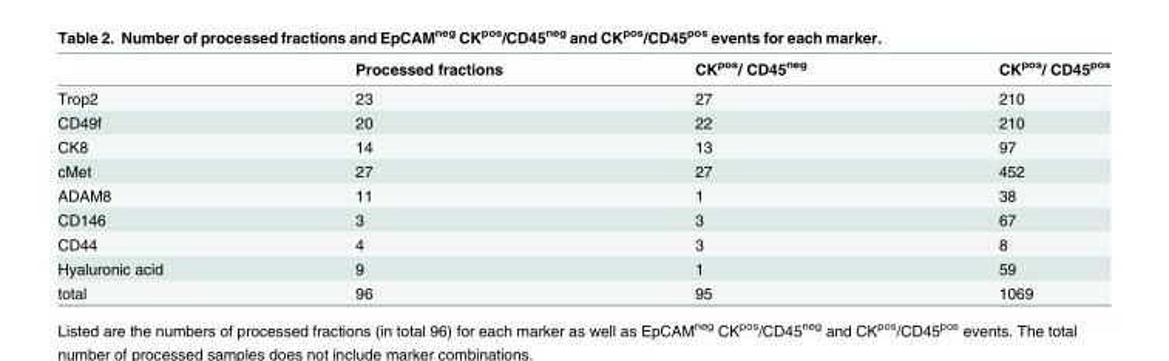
<table><thead><tr><td></td><td>Processed fractions</td><td>CK<sup>pos</sup>/ CD45<sup>neg</sup></td><td>CK<sup>pos</sup>/ CD45<sup>pos</sup></td></tr></thead><tbody><tr><td>Trop2</td><td>23</td><td>27</td><td>210</td></tr><tr><td>CD49f</td><td>20</td><td>22</td><td>210</td></tr><tr><td>CK8</td><td>14</td><td>13</td><td>97</td></tr><tr><td>cMet</td><td>27</td><td>27</td><td>452</td></tr><tr><td>ADAM8</td><td>11</td><td>1</td><td>38</td></tr><tr><td>CD146</td><td>3</td><td>3</td><td>67</td></tr><tr><td>CD44</td><td>4</td><td>3</td><td>8</td></tr><tr><td>Hyaluronic acid</td><td>9</td><td>1</td><td>59</td></tr><tr><td>total</td><td>96</td><td>95</td><td>1069</td></tr></tbody></table>